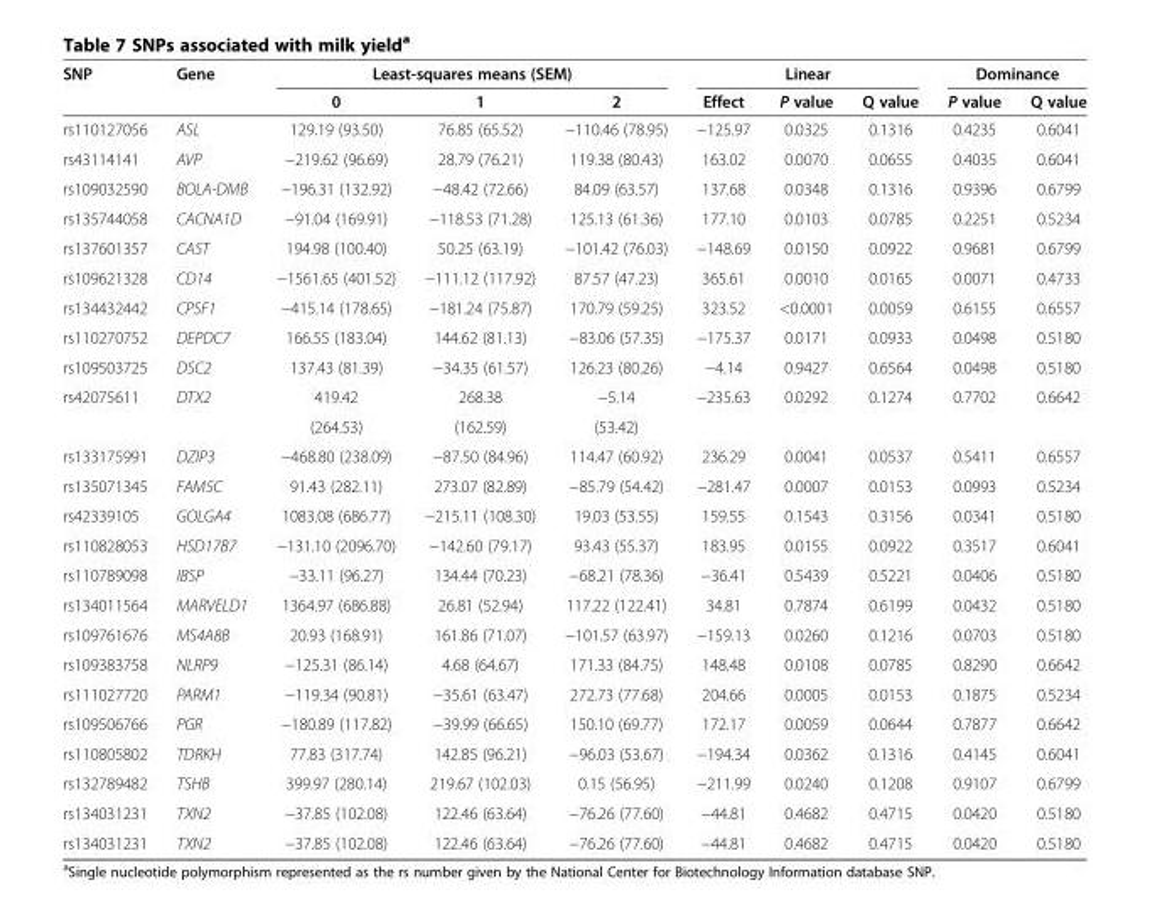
<table><thead><tr><td rowspan="2">SNP</td><td rowspan="2">Gene</td><td colspan="3">Least-squares means (SEM)</td><td colspan="3">Linear</td><td colspan="2">Dominance</td></tr><tr><td>0</td><td>1</td><td>2</td><td>Effect</td><td>P value</td><td>Q value</td><td>P value</td><td>Q value</td></tr></thead><tbody><tr><td>rs110127056</td><td>ASL</td><td>129.19 (93.50)</td><td>76.85 (65.52)</td><td>−110.46 (78.95)</td><td>−125.97</td><td>0.0325</td><td>0.1316</td><td>0.4235</td><td>0.6041</td></tr><tr><td>rs43114141</td><td>AVP</td><td>−219.62 (96.69)</td><td>28.79 (76.21)</td><td>119.38 (80.43)</td><td>163.02</td><td>0.0070</td><td>0.0655</td><td>0.4035</td><td>0.6041</td></tr><tr><td>rs109032590</td><td>BOLA-DMB</td><td>−196.31 (132.92)</td><td>−48.42 (72.66)</td><td>84.09 (63.57)</td><td>137.68</td><td>0.0348</td><td>0.1316</td><td>0.9396</td><td>0.6799</td></tr><tr><td>rs135744058</td><td>CACNA1D</td><td>−91.04 (169.91)</td><td>−118.53 (71.28)</td><td>125.13 (61.36)</td><td>177.10</td><td>0.0103</td><td>0.0785</td><td>0.2251</td><td>0.5234</td></tr><tr><td>rs137601357</td><td>CAST</td><td>194.98 (100.40)</td><td>50.25 (63.19)</td><td>−101.42 (76.03)</td><td>−148.69</td><td>0.0150</td><td>0.0922</td><td>0.9681</td><td>0.6799</td></tr><tr><td>rs109621328</td><td>CD14</td><td>−1561.65 (401.52)</td><td>−111.12 (117.92)</td><td>87.57 (47.23)</td><td>365.61</td><td>0.0010</td><td>0.0165</td><td>0.0071</td><td>0.4733</td></tr><tr><td>rs134432442</td><td>CPSF1</td><td>−415.14 (178.65)</td><td>−181.24 (75.87)</td><td>170.79 (59.25)</td><td>323.52</td><td>&lt;0.0001</td><td>0.0059</td><td>0.6155</td><td>0.6557</td></tr><tr><td>rs110270752</td><td>DEPDC7</td><td>166.55 (183.04)</td><td>144.62 (81.13)</td><td>−83.06 (57.35)</td><td>−175.37</td><td>0.0171</td><td>0.0933</td><td>0.0498</td><td>0.5180</td></tr><tr><td>rs109503725</td><td>DSC2</td><td>137.43 (81.39)</td><td>−34.35 (61.57)</td><td>126.23 (80.26)</td><td>−4.14</td><td>0.9427</td><td>0.6564</td><td>0.0498</td><td>0.5180</td></tr><tr><td rowspan="2">rs42075611</td><td>DTX2</td><td>419.42</td><td>268.38</td><td>−5.14</td><td>−235.63</td><td>0.0292</td><td>0.1274</td><td>0.7702</td><td>0.6642</td></tr><tr><td></td><td>(264.53)</td><td>(162.59)</td><td>(53.42)</td><td></td><td></td><td></td><td></td><td></td></tr><tr><td>rs133175991</td><td>DZIP3</td><td>−468.80 (238.09)</td><td>−87.50 (84.96)</td><td>114.47 (60.92)</td><td>236.29</td><td>0.0041</td><td>0.0537</td><td>0.5411</td><td>0.6557</td></tr><tr><td>rs135071345</td><td>FAM5C</td><td>91.43 (282.11)</td><td>273.07 (82.89)</td><td>−85.79 (54.42)</td><td>−281.47</td><td>0.0007</td><td>0.0153</td><td>0.0993</td><td>0.5234</td></tr><tr><td>rs42339105</td><td>GOLGA4</td><td>1083.08 (686.77)</td><td>−215.11 (108.30)</td><td>19.03 (53.55)</td><td>159.55</td><td>0.1543</td><td>0.3156</td><td>0.0341</td><td>0.5180</td></tr><tr><td>rs110828053</td><td>HSD17B7</td><td>−131.10 (2096.70)</td><td>−142.60 (79.17)</td><td>93.43 (55.37)</td><td>183.95</td><td>0.0155</td><td>0.0922</td><td>0.3517</td><td>0.6041</td></tr><tr><td>rs110789098</td><td>IBSP</td><td>−33.11 (96.27)</td><td>134.44 (70.23)</td><td>−68.21 (78.36)</td><td>−36.41</td><td>0.5439</td><td>0.5221</td><td>0.0406</td><td>0.5180</td></tr><tr><td>rs134011564</td><td>MARVELD1</td><td>1364.97 (686.88)</td><td>26.81 (52.94)</td><td>117.22 (122.41)</td><td>34.81</td><td>0.7874</td><td>0.6199</td><td>0.0432</td><td>0.5180</td></tr><tr><td>rs109761676</td><td>MS4A8B</td><td>20.93 (168.91)</td><td>161.86 (71.07)</td><td>−101.57 (63.97)</td><td>−159.13</td><td>0.0260</td><td>0.1216</td><td>0.0703</td><td>0.5180</td></tr><tr><td>rs109383758</td><td>NLRP9</td><td>−125.31 (86.14)</td><td>4.68 (64.67)</td><td>171.33 (84.75)</td><td>148.48</td><td>0.0108</td><td>0.0785</td><td>0.8290</td><td>0.6642</td></tr><tr><td>rs111027720</td><td>PARM1</td><td>−119.34 (90.81)</td><td>−35.61 (63.47)</td><td>272.73 (77.68)</td><td>204.66</td><td>0.0005</td><td>0.0153</td><td>0.1875</td><td>0.5234</td></tr><tr><td>rs109506766</td><td>PGR</td><td>−180.89 (117.82)</td><td>−39.99 (66.65)</td><td>150.10 (69.77)</td><td>172.17</td><td>0.0059</td><td>0.0644</td><td>0.7877</td><td>0.6642</td></tr><tr><td>rs110805802</td><td>TDRKH</td><td>77.83 (317.74)</td><td>142.85 (96.21)</td><td>−96.03 (53.67)</td><td>−194.34</td><td>0.0362</td><td>0.1316</td><td>0.4145</td><td>0.6041</td></tr><tr><td>rs132789482</td><td>TSHB</td><td>399.97 (280.14)</td><td>219.67 (102.03)</td><td>0.15 (56.95)</td><td>−211.99</td><td>0.0240</td><td>0.1208</td><td>0.9107</td><td>0.6799</td></tr><tr><td>rs134031231</td><td>TXN2</td><td>−37.85 (102.08)</td><td>122.46 (63.64)</td><td>−76.26 (77.60)</td><td>−44.81</td><td>0.4682</td><td>0.4715</td><td>0.0420</td><td>0.5180</td></tr><tr><td>rs134031231</td><td>TXN2</td><td>−37.85 (102.08)</td><td>122.46 (63.64)</td><td>−76.26 (77.60)</td><td>−44.81</td><td>0.4682</td><td>0.4715</td><td>0.0420</td><td>0.5180</td></tr></tbody></table>